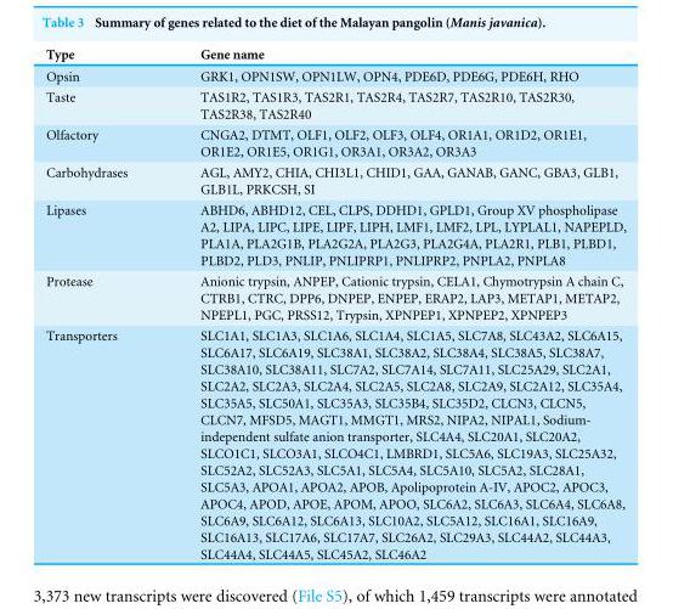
<table><thead><tr><td>Type</td><td>Gene name</td></tr></thead><tbody><tr><td>Opsin</td><td>GRK1, OPN1SW, OPN1LW, OPN4, PDE6D, PDE6G, PDE6H, RHO</td></tr><tr><td>Taste</td><td>TAS1R2, TAS1R3, TAS2R1, TAS2R4, TAS2R7, TAS2R10, TAS2R30, TAS2R38, TAS2R40</td></tr><tr><td>Olfactory</td><td>CNGA2, DTMT, OLF1, OLF2, OLF3, OLF4, OR1A1, OR1D2, OR1E1, OR1E2, OR1E5, OR1G1, OR3A1, OR3A2, OR3A3</td></tr><tr><td>Carbohydrases</td><td>AGL, AMY2, CHIA, CHI3L1, CHID1, GAA, GANAB, GANC, GBA3, GLB1, GLB1L, PRKCSH, SI</td></tr><tr><td>Lipases</td><td>ABHD6, ABHD12, CEL, CLPS, DDHD1, GPLD1, Group XV phospholipase A2, LIPA, LIPC, LIPE, LIPF, LIPH, LMF1, LMF2, LPL, LYPLAL1, NAPEPLD, PLA1A, PLA2G1B, PLA2G2A, PLA2G3, PLA2G4A, PLA2R1, PLB1, PLBD1, PLBD2, PLD3, PNLIP, PNLIPRP1, PNLIPRP2, PNPLA2, PNPLA8</td></tr><tr><td>Protease</td><td>Anionic trypsin, ANPEP, Cationic trypsin, CELA1, Chymotrypsin A chain C, CTRB1, CTRC, DPP6, DNPEP, ENPEP, ERAP2, LAP3, METAP1, METAP2, NPEPL1, PGC, PRSS12, Trypsin, XPNPEP1, XPNPEP2, XPNPEP3</td></tr><tr><td>Transporters</td><td>SLC1A1, SLC1A3, SLC1A6, SLC1A4, SLC1A5, SLC7A8, SLC43A2, SLC6A15, SLC6A17, SLC6A19, SLC38A1, SLC38A2, SLC38A4, SLC38A5, SLC38A7, SLC38A10, SLC38A11, SLC7A2, SLC7A14, SLC7A11, SLC25A29, SLC2A1, SLC2A2, SLC2A3, SLC2A4, SLC2A5, SLC2A8, SLC2A9, SLC2A12, SLC35A4, SLC35A5, SLC50A1, SLC35A3, SLC35B4, SLC35D2, CLCN3, CLCN5, CLCN7, MFSD5, MAGT1, MMGT1, MRS2, NIPA2, NIPAL1, Sodium- independent sulfate anion transporter, SLC4A4, SLC20A1, SLC20A2, SLCO1C1, SLCO3A1, SLCO4C1, LMBRD1, SLC5A6, SLC19A3, SLC25A32, SLC52A2, SLC52A3, SLC5A1, SLC5A4, SLC5A10, SLC5A2, SLC28A1, SLC5A3, APOA1, APOA2, APOB, Apolipoprotein A-IV, APOC2, APOC3, APOC4, APOD, APOE, APOM, APOO, SLC6A2, SLC6A3, SLC6A4, SLC6A8, SLC6A9, SLC6A12, SLC6A13, SLC10A2, SLC5A12, SLC16A1, SLC16A9, SLC16A13, SLC17A6, SLC17A7, SLC26A2, SLC29A3, SLC44A2, SLC44A3, SLC44A4, SLC44A5, SLC45A2, SLC46A2</td></tr></tbody></table>